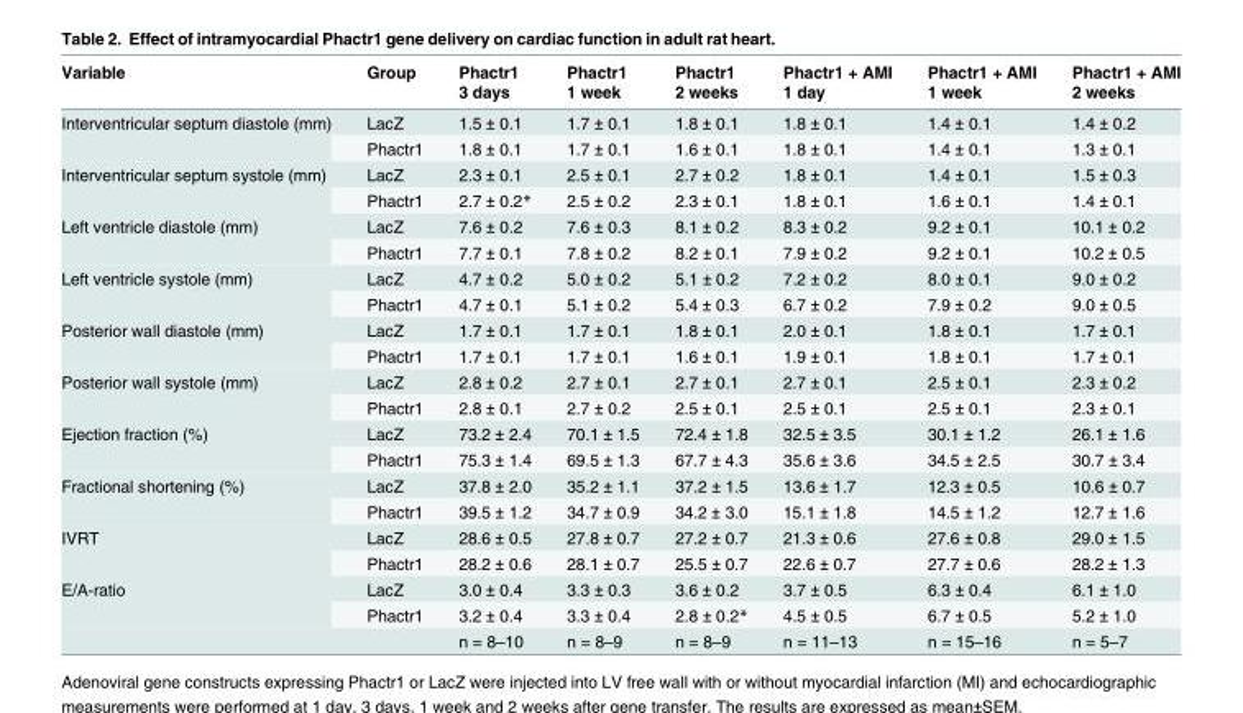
<table><thead><tr><td rowspan="2">Variable</td><td rowspan="2">Group</td><td rowspan="2">Phactr1 3 days</td><td rowspan="2">Phactr1 1 week</td><td rowspan="2">Phactr1 2 weeks</td><td rowspan="2">Phactr1 + AMI 1 day</td><td rowspan="2">Phactr1 + AMI 1 week</td><td rowspan="2">Phactr1 + AMI 2 weeks</td></tr><tr></tr></thead><tbody><tr><td rowspan="2">Interventricular septum diastole (mm)</td><td>LacZ</td><td>1.5 ± 0.1</td><td>1.7 ± 0.1</td><td>1.8 ± 0.1</td><td>1.8 ± 0.1</td><td>1.4 ± 0.1</td><td>1.4 ± 0.2</td></tr><tr><td>Phactr1</td><td>1.8 ± 0.1</td><td>1.7 ± 0.1</td><td>1.6 ± 0.1</td><td>1.8 ± 0.1</td><td>1.4 ± 0.1</td><td>1.3 ± 0.1</td></tr><tr><td rowspan="2">Interventricular septum systole (mm)</td><td>LacZ</td><td>2.3 ± 0.1</td><td>2.5 ± 0.1</td><td>2.7 ± 0.2</td><td>1.8 ± 0.1</td><td>1.4 ± 0.1</td><td>1.5 ± 0.3</td></tr><tr><td>Phactr1</td><td>2.7 ± 0.2*</td><td>2.5 ± 0.2</td><td>2.3 ± 0.1</td><td>1.8 ± 0.1</td><td>1.6 ± 0.1</td><td>1.4 ± 0.1</td></tr><tr><td rowspan="2">Left ventricle diastole (mm)</td><td>LacZ</td><td>7.6 ± 0.2</td><td>7.6 ± 0.3</td><td>8.1 ± 0.2</td><td>8.3 ± 0.2</td><td>9.2 ± 0.1</td><td>10.1 ± 0.2</td></tr><tr><td>Phactr1</td><td>7.7 ± 0.1</td><td>7.8 ± 0.2</td><td>8.2 ± 0.1</td><td>7.9 ± 0.2</td><td>9.2 ± 0.1</td><td>10.2 ± 0.5</td></tr><tr><td rowspan="2">Left ventricle systole (mm)</td><td>LacZ</td><td>4.7 ± 0.2</td><td>5.0 ± 0.2</td><td>5.1 ± 0.2</td><td>7.2 ± 0.2</td><td>8.0 ± 0.1</td><td>9.0 ± 0.2</td></tr><tr><td>Phactr1</td><td>4.7 ± 0.1</td><td>5.1 ± 0.2</td><td>5.4 ± 0.3</td><td>6.7 ± 0.2</td><td>7.9 ± 0.2</td><td>9.0 ± 0.5</td></tr><tr><td rowspan="2">Posterior wall diastole (mm)</td><td>LacZ</td><td>1.7 ± 0.1</td><td>1.7 ± 0.1</td><td>1.8 ± 0.1</td><td>2.0 ± 0.1</td><td>1.8 ± 0.1</td><td>1.7 ± 0.1</td></tr><tr><td>Phactr1</td><td>1.7 ± 0.1</td><td>1.7 ± 0.1</td><td>1.6 ± 0.1</td><td>1.9 ± 0.1</td><td>1.8 ± 0.1</td><td>1.7 ± 0.1</td></tr><tr><td rowspan="2">Posterior wall systole (mm)</td><td>LacZ</td><td>2.8 ± 0.2</td><td>2.7 ± 0.1</td><td>2.7 ± 0.1</td><td>2.7 ± 0.1</td><td>2.5 ± 0.1</td><td>2.3 ± 0.2</td></tr><tr><td>Phactr1</td><td>2.8 ± 0.1</td><td>2.7 ± 0.2</td><td>2.5 ± 0.1</td><td>2.5 ± 0.1</td><td>2.5 ± 0.1</td><td>2.3 ± 0.1</td></tr><tr><td rowspan="2">Ejection fraction (%)</td><td>LacZ</td><td>73.2 ± 2.4</td><td>70.1 ± 1.5</td><td>72.4 ± 1.8</td><td>32.5 ± 3.5</td><td>30.1 ± 1.2</td><td>26.1 ± 1.6</td></tr><tr><td>Phactr1</td><td>75.3 ± 1.4</td><td>69.5 ± 1.3</td><td>67.7 ± 4.3</td><td>35.6 ± 3.6</td><td>34.5 ± 2.5</td><td>30.7 ± 3.4</td></tr><tr><td rowspan="2">Fractional shortening (%)</td><td>LacZ</td><td>37.8 ± 2.0</td><td>35.2 ± 1.1</td><td>37.2 ± 1.5</td><td>13.6 ± 1.7</td><td>12.3 ± 0.5</td><td>10.6 ± 0.7</td></tr><tr><td>Phactr1</td><td>39.5 ± 1.2</td><td>34.7 ± 0.9</td><td>34.2 ± 3.0</td><td>15.1 ± 1.8</td><td>14.5 ± 1.2</td><td>12.7 ± 1.6</td></tr><tr><td rowspan="2">IVRT</td><td>LacZ</td><td>28.6 ± 0.5</td><td>27.8 ± 0.7</td><td>27.2 ± 0.7</td><td>21.3 ± 0.6</td><td>27.6 ± 0.8</td><td>29.0 ± 1.5</td></tr><tr><td>Phactr1</td><td>28.2 ± 0.6</td><td>28.1 ± 0.7</td><td>25.5 ± 0.7</td><td>22.6 ± 0.7</td><td>27.7 ± 0.6</td><td>28.2 ± 1.3</td></tr><tr><td rowspan="3">E/A-ratio</td><td>LacZ</td><td>3.0 ± 0.4</td><td>3.3 ± 0.3</td><td>3.6 ± 0.2</td><td>3.7 ± 0.5</td><td>6.3 ± 0.4</td><td>6.1 ± 1.0</td></tr><tr><td>Phactr1</td><td>3.2 ± 0.4</td><td>3.3 ± 0.4</td><td>2.8 ± 0.2*</td><td>4.5 ± 0.5</td><td>6.7 ± 0.5</td><td>5.2 ± 1.0</td></tr><tr><td></td><td>n = 8–10</td><td>n = 8–9</td><td>n = 8–9</td><td>n = 11–13</td><td>n = 15–16</td><td>n = 5–7</td></tr></tbody></table>